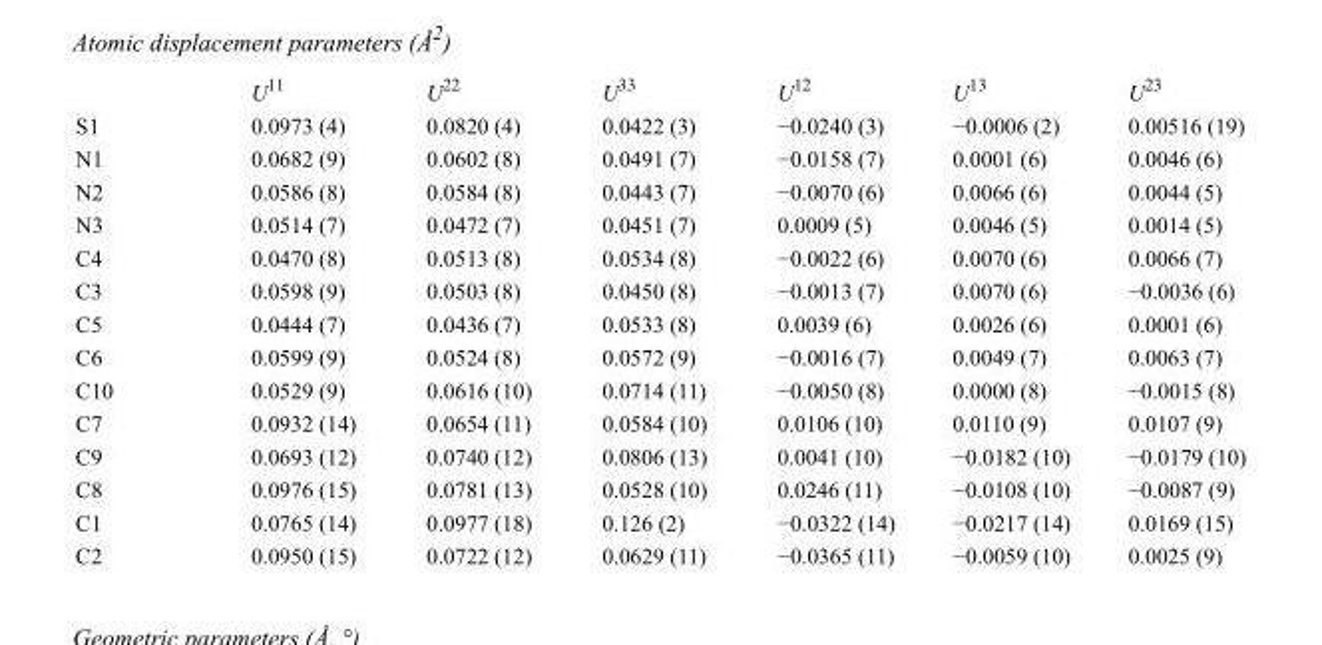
<table><thead><tr><td></td><td>U<sup>11</sup></td><td>U<sup>22</sup></td><td>U<sup>33</sup></td><td>U<sup>12</sup></td><td>U<sup>13</sup></td><td>U<sup>23</sup></td></tr></thead><tbody><tr><td>S1</td><td>0.0973 (4)</td><td>0.0820 (4)</td><td>0.0422 (3)</td><td>−0.0240 (3)</td><td>−0.0006 (2)</td><td>0.00516 (19)</td></tr><tr><td>N1</td><td>0.0682 (9)</td><td>0.0602 (8)</td><td>0.0491 (7)</td><td>−0.0158 (7)</td><td>0.0001 (6)</td><td>0.0046 (6)</td></tr><tr><td>N2</td><td>0.0586 (8)</td><td>0.0584 (8)</td><td>0.0443 (7)</td><td>−0.0070 (6)</td><td>0.0066 (6)</td><td>0.0044 (5)</td></tr><tr><td>N3</td><td>0.0514 (7)</td><td>0.0472 (7)</td><td>0.0451 (7)</td><td>0.0009 (5)</td><td>0.0046 (5)</td><td>0.0014 (5)</td></tr><tr><td>C4</td><td>0.0470 (8)</td><td>0.0513 (8)</td><td>0.0534 (8)</td><td>−0.0022 (6)</td><td>0.0070 (6)</td><td>0.0066 (7)</td></tr><tr><td>C3</td><td>0.0598 (9)</td><td>0.0503 (8)</td><td>0.0450 (8)</td><td>−0.0013 (7)</td><td>0.0070 (6)</td><td>−0.0036 (6)</td></tr><tr><td>C5</td><td>0.0444 (7)</td><td>0.0436 (7)</td><td>0.0533 (8)</td><td>0.0039 (6)</td><td>0.0026 (6)</td><td>0.0001 (6)</td></tr><tr><td>C6</td><td>0.0599 (9)</td><td>0.0524 (8)</td><td>0.0572 (9)</td><td>−0.0016 (7)</td><td>0.0049 (7)</td><td>0.0063 (7)</td></tr><tr><td>C10</td><td>0.0529 (9)</td><td>0.0616 (10)</td><td>0.0714 (11)</td><td>−0.0050 (8)</td><td>0.0000 (8)</td><td>−0.0015 (8)</td></tr><tr><td>C7</td><td>0.0932 (14)</td><td>0.0654 (11)</td><td>0.0584 (10)</td><td>0.0106 (10)</td><td>0.0110 (9)</td><td>0.0107 (9)</td></tr><tr><td>C9</td><td>0.0693 (12)</td><td>0.0740 (12)</td><td>0.0806 (13)</td><td>0.0041 (10)</td><td>−0.0182 (10)</td><td>−0.0179 (10)</td></tr><tr><td>C8</td><td>0.0976 (15)</td><td>0.0781 (13)</td><td>0.0528 (10)</td><td>0.0246 (11)</td><td>−0.0108 (10)</td><td>−0.0087 (9)</td></tr><tr><td>C1</td><td>0.0765 (14)</td><td>0.0977 (18)</td><td>0.126 (2)</td><td>−0.0322 (14)</td><td>−0.0217 (14)</td><td>0.0169 (15)</td></tr><tr><td>C2</td><td>0.0950 (15)</td><td>0.0722 (12)</td><td>0.0629 (11)</td><td>−0.0365 (11)</td><td>−0.0059 (10)</td><td>0.0025 (9)</td></tr></tbody></table>